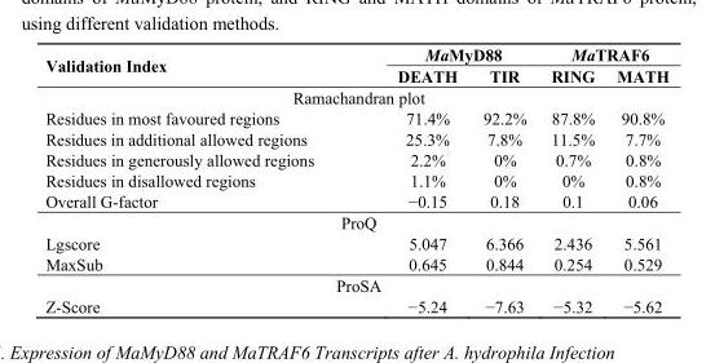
<table><thead><tr><td rowspan="2">Validation Index</td><td colspan="2">MaMyD88</td><td colspan="2">MaTRAF6</td></tr><tr><td>DEATH</td><td>TIR</td><td>RING</td><td>MATH</td></tr></thead><tbody><tr><td colspan="5">Ramachandran plot</td></tr><tr><td>Residues in most favoured regions</td><td>71.4%</td><td>92.2%</td><td>87.8%</td><td>90.8%</td></tr><tr><td>Residues in additional allowed regions</td><td>25.3%</td><td>7.8%</td><td>11.5%</td><td>7.7%</td></tr><tr><td>Residues in generously allowed regions</td><td>2.2%</td><td>0%</td><td>0.7%</td><td>0.8%</td></tr><tr><td>Residues in disallowed regions</td><td>1.1%</td><td>0%</td><td>0%</td><td>0.8%</td></tr><tr><td>Overall G-factor</td><td>−0.15</td><td>0.18</td><td>0.1</td><td>0.06</td></tr><tr><td colspan="5">ProQ</td></tr><tr><td>Lgscore</td><td>5.047</td><td>6.366</td><td>2.436</td><td>5.561</td></tr><tr><td>MaxSub</td><td>0.645</td><td>0.844</td><td>0.254</td><td>0.529</td></tr><tr><td colspan="5">ProSA</td></tr><tr><td>Z-Score</td><td>−5.24</td><td>−7.63</td><td>−5.32</td><td>−5.62</td></tr></tbody></table>